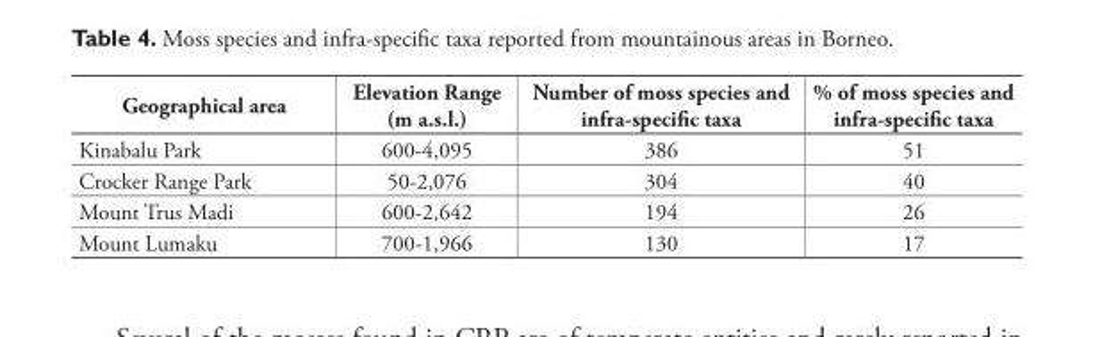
<table><thead><tr><td>Geographical area</td><td>Elevation Range (m a.s.l.)</td><td>Number of moss species and infra-specific taxa</td><td>% of moss species and infra-specific taxa</td></tr></thead><tbody><tr><td>Kinabalu Park</td><td>600-4,095</td><td>386</td><td>51</td></tr><tr><td>Crocker Range Park</td><td>50-2,076</td><td>304</td><td>40</td></tr><tr><td>Mount Trus Madi</td><td>600-2,642</td><td>194</td><td>26</td></tr><tr><td>Mount Lumaku</td><td>700-1,966</td><td>130</td><td>17</td></tr></tbody></table>